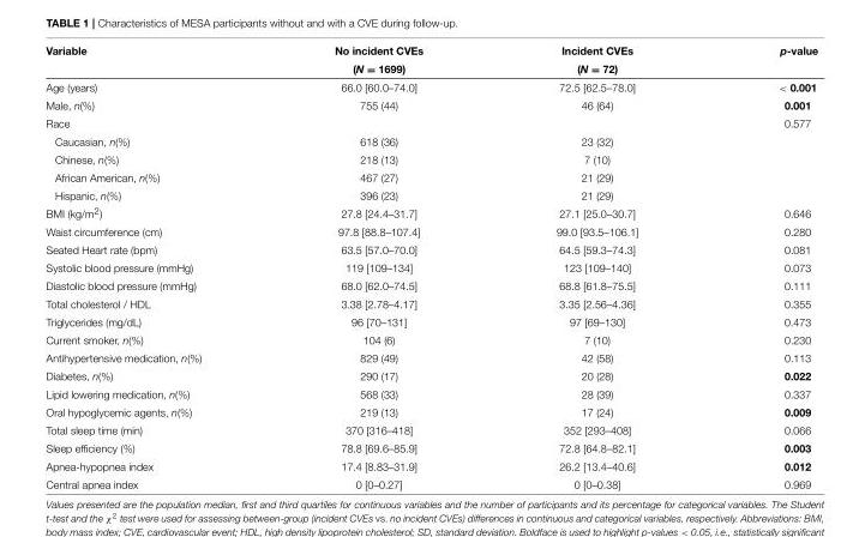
<table><thead><tr><td rowspan="2">Variable</td><td rowspan="2">No incident CVEs (N = 1699)</td><td rowspan="2">Incident CVEs (N = 72)</td><td rowspan="2">p-value</td></tr><tr></tr></thead><tbody><tr><td>Age (years)</td><td>66.0 [60.0–74.0]</td><td>72.5 [62.5–78.0]</td><td>&lt; 0.001</td></tr><tr><td>Male, n(%)</td><td>755 (44)</td><td>46 (64)</td><td>0.001</td></tr><tr><td>Race</td><td></td><td></td><td>0.577</td></tr><tr><td>Caucasian, n(%)</td><td>618 (36)</td><td>23 (32)</td><td></td></tr><tr><td>Chinese, n(%)</td><td>218 (13)</td><td>7 (10)</td><td></td></tr><tr><td>African American, n(%)</td><td>467 (27)</td><td>21 (29)</td><td></td></tr><tr><td>Hispanic, n(%)</td><td>396 (23)</td><td>21 (29)</td><td></td></tr><tr><td>BMI (kg/m<sup>2</sup>)</td><td>27.8 [24.4–31.7]</td><td>27.1 [25.0–30.7]</td><td>0.646</td></tr><tr><td>Waist circumference (cm)</td><td>97.8 [88.8–107.4]</td><td>99.0 [93.5–106.1]</td><td>0.280</td></tr><tr><td>Seated Heart rate (bpm)</td><td>63.5 [57.0–70.0]</td><td>64.5 [59.3–74.3]</td><td>0.081</td></tr><tr><td>Systolic blood pressure (mmHg)</td><td>119 [109–134]</td><td>123 [109–140]</td><td>0.073</td></tr><tr><td>Diastolic blood pressure (mmHg)</td><td>68.0 [62.0–74.5]</td><td>68.8 [61.8–75.5]</td><td>0.111</td></tr><tr><td>Total cholesterol / HDL</td><td>3.38 [2.78–4.17]</td><td>3.35 [2.56–4.36]</td><td>0.355</td></tr><tr><td>Triglycerides (mg/dL)</td><td>96 [70–131]</td><td>97 [69–130]</td><td>0.473</td></tr><tr><td>Current smoker, n(%)</td><td>104 (6)</td><td>7 (10)</td><td>0.230</td></tr><tr><td>Antihypertensive medication, n(%)</td><td>829 (49)</td><td>42 (58)</td><td>0.113</td></tr><tr><td>Diabetes, n(%)</td><td>290 (17)</td><td>20 (28)</td><td>0.022</td></tr><tr><td>Lipid lowering medication, n(%)</td><td>568 (33)</td><td>28 (39)</td><td>0.337</td></tr><tr><td>Oral hypoglycemic agents, n(%)</td><td>219 (13)</td><td>17 (24)</td><td>0.009</td></tr><tr><td>Total sleep time (min)</td><td>370 [316–418]</td><td>352 [293–408]</td><td>0.066</td></tr><tr><td>Sleep efficiency (%)</td><td>78.8 [69.6–85.9]</td><td>72.8 [64.8–82.1]</td><td>0.003</td></tr><tr><td>Apnea-hypopnea index</td><td>17.4 [8.83–31.9]</td><td>26.2 [13.4–40.6]</td><td>0.012</td></tr><tr><td>Central apnea index</td><td>0 [0–0.27]</td><td>0 [0–0.38]</td><td>0.969</td></tr></tbody></table>